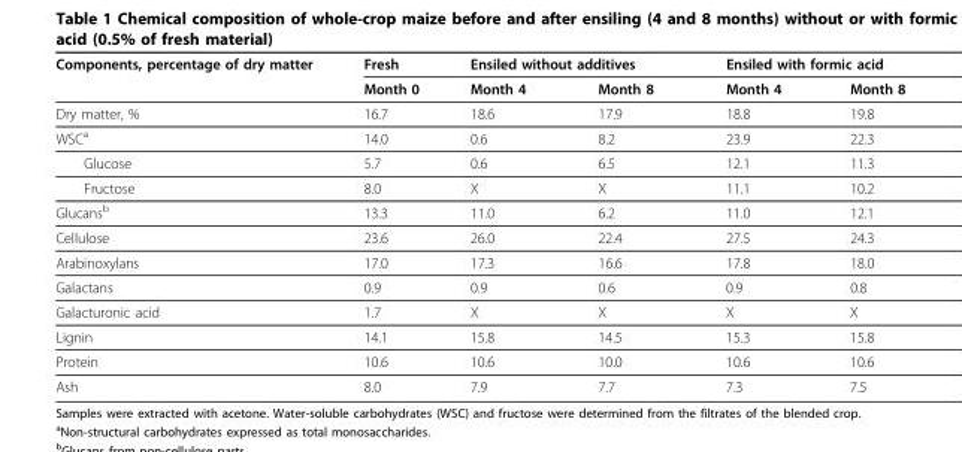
<table><thead><tr><td rowspan="2">Components, percentage of dry matter</td><td rowspan="2">Fresh Month 0</td><td colspan="2">Ensiled without additives</td><td colspan="2">Ensiled with formic acid</td></tr><tr><td>Month 4</td><td>Month 8</td><td>Month 4</td><td>Month 8</td></tr></thead><tbody><tr><td>Dry matter, %</td><td>16.7</td><td>18.6</td><td>17.9</td><td>18.8</td><td>19.8</td></tr><tr><td>WSC<sup>a</sup></td><td>14.0</td><td>0.6</td><td>8.2</td><td>23.9</td><td>22.3</td></tr><tr><td>Glucose</td><td>5.7</td><td>0.6</td><td>6.5</td><td>12.1</td><td>11.3</td></tr><tr><td>Fructose</td><td>8.0</td><td>X</td><td>X</td><td>11.1</td><td>10.2</td></tr><tr><td>Glucans<sup>b</sup></td><td>13.3</td><td>11.0</td><td>6.2</td><td>11.0</td><td>12.1</td></tr><tr><td>Cellulose</td><td>23.6</td><td>26.0</td><td>22.4</td><td>27.5</td><td>24.3</td></tr><tr><td>Arabinoxylans</td><td>17.0</td><td>17.3</td><td>16.6</td><td>17.8</td><td>18.0</td></tr><tr><td>Galactans</td><td>0.9</td><td>0.9</td><td>0.6</td><td>0.9</td><td>0.8</td></tr><tr><td>Galacturonic acid</td><td>1.7</td><td>X</td><td>X</td><td>X</td><td>X</td></tr><tr><td>Lignin</td><td>14.1</td><td>15.8</td><td>14.5</td><td>15.3</td><td>15.8</td></tr><tr><td>Protein</td><td>10.6</td><td>10.6</td><td>10.0</td><td>10.6</td><td>10.6</td></tr><tr><td>Ash</td><td>8.0</td><td>7.9</td><td>7.7</td><td>7.3</td><td>7.5</td></tr></tbody></table>